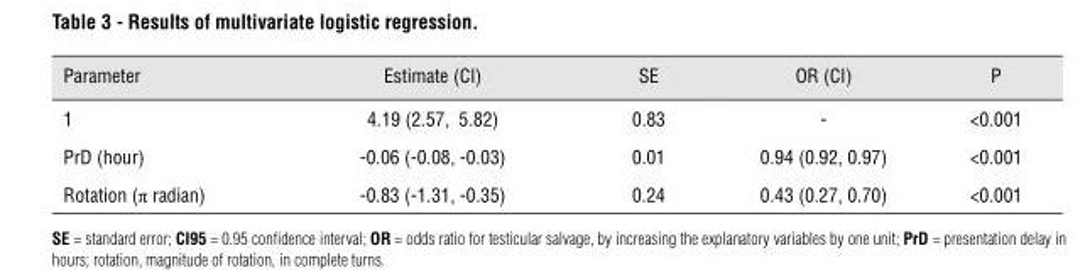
<table><thead><tr><td>Parameter</td><td>Estimate (CI)</td><td>SE</td><td>OR (CI)</td><td>P</td></tr></thead><tbody><tr><td>1</td><td>4.19 (2.57, 5.82)</td><td>0.83</td><td>-</td><td>&lt;0.001</td></tr><tr><td>PrD (hour)</td><td>-0.06 (-0.08, -0.03)</td><td>0.01</td><td>0.94 (0.92, 0.97)</td><td>&lt;0.001</td></tr><tr><td>Rotation (π radian)</td><td>-0.83 (-1.31, -0.35)</td><td>0.24</td><td>0.43 (0.27, 0.70)</td><td>&lt;0.001</td></tr></tbody></table>